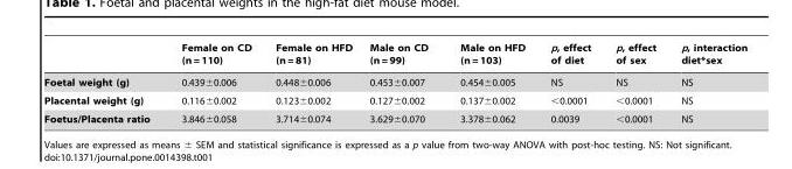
<table><thead><tr><td></td><td>Female on CD (n = 110)</td><td>Female on HFD (n = 81)</td><td>Male on CD (n = 99)</td><td>Male on HFD (n = 103)</td><td>p, effect of diet</td><td>p, effect of sex</td><td>p, interaction diet*sex</td></tr></thead><tbody><tr><td>Foetal weight (g)</td><td>0.439±0.006</td><td>0.448±0.006</td><td>0.453±0.007</td><td>0.454±0.005</td><td>NS</td><td>NS</td><td>NS</td></tr><tr><td>Placental weight (g)</td><td>0.116±0.002</td><td>0.123±0.002</td><td>0.127±0.002</td><td>0.137±0.002</td><td>&lt;0.0001</td><td>&lt;0.0001</td><td>NS</td></tr><tr><td>Foetus/Placenta ratio</td><td>3.846±0.058</td><td>3.714±0.074</td><td>3.629±0.070</td><td>3.378±0.062</td><td>0.0039</td><td>&lt;0.0001</td><td>NS</td></tr></tbody></table>